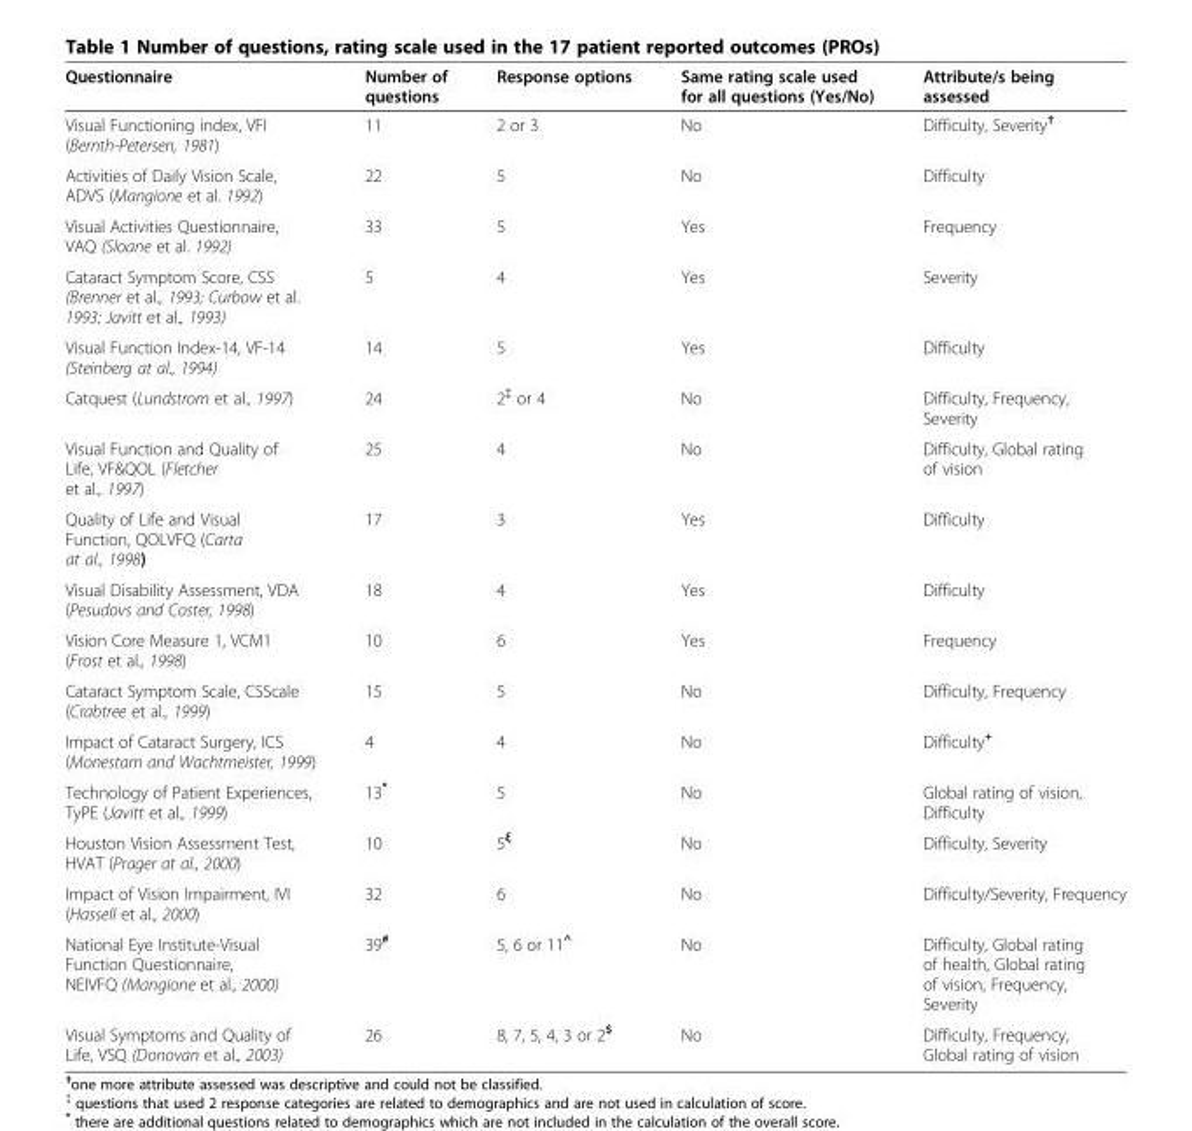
<table><thead><tr><td>Questionnaire</td><td>Number of questions</td><td>Response options</td><td>Same rating scale used for all questions (Yes/No)</td><td>Attribute/s being assessed</td></tr></thead><tbody><tr><td>Visual Functioning index, VFI (Bernth-Petersen, 1981)</td><td>11</td><td>2 or 3</td><td>No</td><td>Difficulty, Severity<sup>†</sup></td></tr><tr><td>Activities of Daily Vision Scale, ADVS (Mangione et al. 1992)</td><td>22</td><td>5</td><td>No</td><td>Difficulty</td></tr><tr><td>Visual Activities Questionnaire, VAQ (Sloane et al. 1992)</td><td>33</td><td>5</td><td>Yes</td><td>Frequency</td></tr><tr><td>Cataract Symptom Score, CSS (Brenner et al., 1993; Curbow et al. 1993; Javitt et al., 1993)</td><td>5</td><td>4</td><td>Yes</td><td>Severity</td></tr><tr><td>Visual Function Index-14, VF-14 (Steinberg at al., 1994)</td><td>14</td><td>5</td><td>Yes</td><td>Difficulty</td></tr><tr><td>Catquest (Lundstrom et al., 1997)</td><td>24</td><td>2<sup>‡</sup> or 4</td><td>No</td><td>Difficulty, Frequency, Severity</td></tr><tr><td>Visual Function and Quality of Life, VF&amp;QOL (Fletcher et al., 1997)</td><td>25</td><td>4</td><td>No</td><td>Difficulty, Global rating of vision</td></tr><tr><td>Quality of Life and Visual Function, QOLVFQ (Carta at al., 1998)</td><td>17</td><td>3</td><td>Yes</td><td>Difficulty</td></tr><tr><td>Visual Disability Assessment, VDA (Pesudovs and Coster, 1998)</td><td>18</td><td>4</td><td>Yes</td><td>Difficulty</td></tr><tr><td>Vision Core Measure 1, VCM1 (Frost et al., 1998)</td><td>10</td><td>6</td><td>Yes</td><td>Frequency</td></tr><tr><td>Cataract Symptom Scale, CSScale (Crabtree et al., 1999)</td><td>15</td><td>5</td><td>No</td><td>Difficulty, Frequency</td></tr><tr><td>Impact of Cataract Surgery, ICS (Monestam and Wachtmeister, 1999)</td><td>4</td><td>4</td><td>No</td><td>Difficulty<sup>+</sup></td></tr><tr><td>Technology of Patient Experiences, TyPE (Javitt et al., 1999)</td><td>13*</td><td>5</td><td>No</td><td>Global rating of vision, Difficulty</td></tr><tr><td>Houston Vision Assessment Test, HVAT (Prager at al., 2000)</td><td>10</td><td>5<sup>ξ</sup></td><td>No</td><td>Difficulty, Severity</td></tr><tr><td>Impact of Vision Impairment, IVI (Hassell et al., 2000)</td><td>32</td><td>6</td><td>No</td><td>Difficulty/Severity, Frequency</td></tr><tr><td>National Eye Institute-Visual Function Questionnaire, NEIVFQ (Mangione et al., 2000)</td><td>39<sup>#</sup></td><td>5, 6 or 11<sup>^</sup></td><td>No</td><td>Difficulty, Global rating of health, Global rating of vision, Frequency, Severity</td></tr><tr><td>Visual Symptoms and Quality of Life, VSQ (Donovan et al., 2003)</td><td>26</td><td>8, 7, 5, 4, 3 or 2<sup>$</sup></td><td>No</td><td>Difficulty, Frequency, Global rating of vision</td></tr></tbody></table>